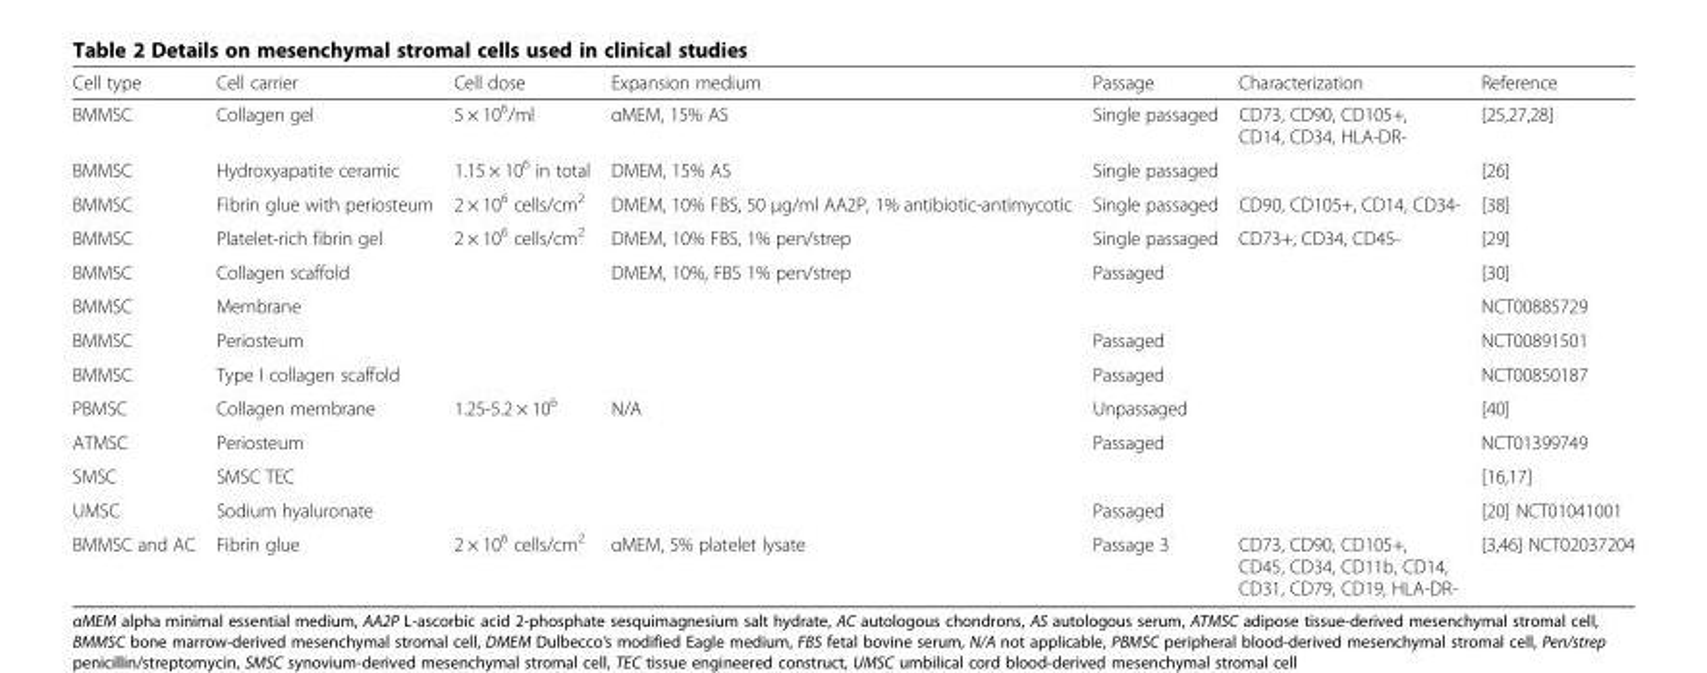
<table><thead><tr><td>Cell type</td><td>Cell carrier</td><td>Cell dose</td><td>Expansion medium</td><td>Passage</td><td>Characterization</td><td>Reference</td></tr></thead><tbody><tr><td>BMMSC</td><td>Collagen gel</td><td>5 × 10<sup>6</sup>/ml</td><td>αMEM, 15% AS</td><td>Single passaged</td><td>CD73, CD90, CD105+, CD14, CD34, HLA-DR-</td><td>[25,27,28]</td></tr><tr><td>BMMSC</td><td>Hydroxyapatite ceramic</td><td>1.15 × 10<sup>6</sup> in total</td><td>DMEM, 15% AS</td><td>Single passaged</td><td></td><td>[26]</td></tr><tr><td>BMMSC</td><td>Fibrin glue with periosteum</td><td>2 × 10<sup>6</sup> cells/cm<sup>2</sup></td><td>DMEM, 10% FBS, 50 μg/ml AA2P, 1% antibiotic-antimycotic</td><td>Single passaged</td><td>CD90, CD105+, CD14, CD34-</td><td>[38]</td></tr><tr><td>BMMSC</td><td>Platelet-rich fibrin gel</td><td>2 × 10<sup>6</sup> cells/cm<sup>2</sup></td><td>DMEM, 10% FBS, 1% pen/strep</td><td>Single passaged</td><td>CD73+, CD34, CD45-</td><td>[29]</td></tr><tr><td>BMMSC</td><td>Collagen scaffold</td><td></td><td>DMEM, 10%, FBS 1% pen/strep</td><td>Passaged</td><td></td><td>[30]</td></tr><tr><td>BMMSC</td><td>Membrane</td><td></td><td></td><td></td><td></td><td>NCT00885729</td></tr><tr><td>BMMSC</td><td>Periosteum</td><td></td><td></td><td>Passaged</td><td></td><td>NCT00891501</td></tr><tr><td>BMMSC</td><td>Type I collagen scaffold</td><td></td><td></td><td>Passaged</td><td></td><td>NCT00850187</td></tr><tr><td>PBMSC</td><td>Collagen membrane</td><td>1.25-5.2 × 10<sup>6</sup></td><td>N/A</td><td>Unpassaged</td><td></td><td>[40]</td></tr><tr><td>ATMSC</td><td>Periosteum</td><td></td><td></td><td>Passaged</td><td></td><td>NCT01399749</td></tr><tr><td>SMSC</td><td>SMSC TEC</td><td></td><td></td><td></td><td></td><td>[16,17]</td></tr><tr><td>UMSC</td><td>Sodium hyaluronate</td><td></td><td></td><td>Passaged</td><td></td><td>[20] NCT01041001</td></tr><tr><td>BMMSC and AC</td><td>Fibrin glue</td><td>2 × 10<sup>6</sup> cells/cm<sup>2</sup></td><td>αMEM, 5% platelet lysate</td><td>Passage 3</td><td>CD73, CD90, CD105+, CD45, CD34, CD11b, CD14, CD31, CD79, CD19, HLA-DR-</td><td>[3,46] NCT02037204</td></tr></tbody></table>